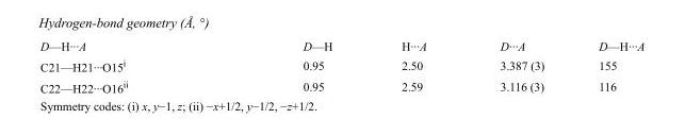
<table><tbody><tr><td>D—H···A</td><td>D—H</td><td>H···A</td><td>D···A</td><td>D—H···A</td></tr><tr><td>C21—H21···O15<sup>i</sup></td><td>0.95</td><td>2.50</td><td>3.387 (3)</td><td>155</td></tr><tr><td>C22—H22···O16<sup>ii</sup></td><td>0.95</td><td>2.59</td><td>3.116 (3)</td><td>116</td></tr></tbody></table>